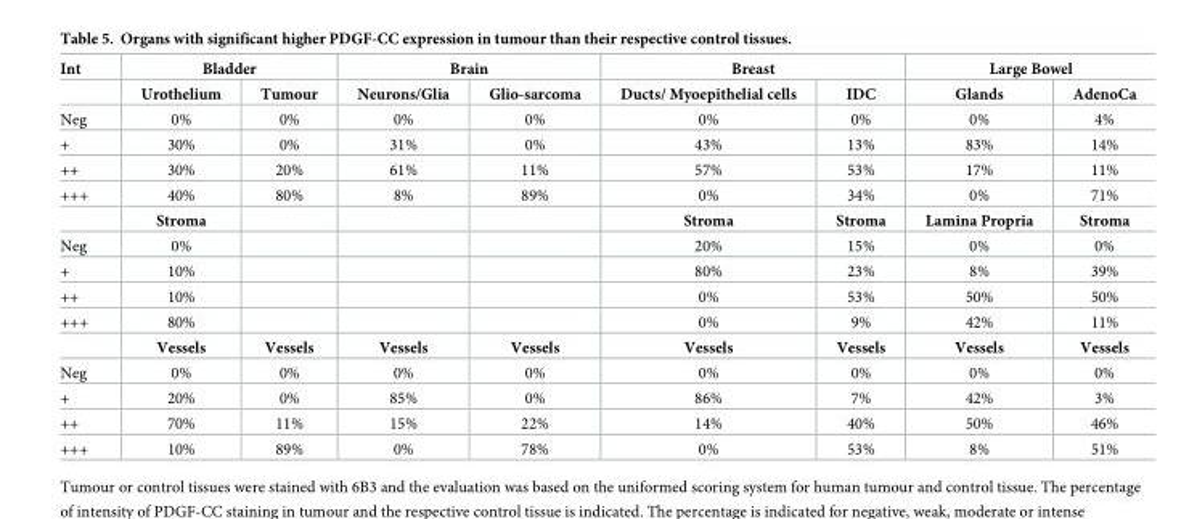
<table><thead><tr><td rowspan="2">Int</td><td colspan="2">Bladder</td><td colspan="2">Brain</td><td colspan="2">Breast</td><td colspan="2">Large Bowel</td></tr><tr><td>Urothelium</td><td>Tumour</td><td>Neurons/Glia</td><td>Glio-sarcoma</td><td>Ducts/ Myoepithelial cells</td><td>IDC</td><td>Glands</td><td>AdenoCa</td></tr></thead><tbody><tr><td>Neg</td><td>0%</td><td>0%</td><td>0%</td><td>0%</td><td>0%</td><td>0%</td><td>0%</td><td>4%</td></tr><tr><td>+</td><td>30%</td><td>0%</td><td>31%</td><td>0%</td><td>43%</td><td>13%</td><td>83%</td><td>14%</td></tr><tr><td>++</td><td>30%</td><td>20%</td><td>61%</td><td>11%</td><td>57%</td><td>53%</td><td>17%</td><td>11%</td></tr><tr><td rowspan="2">+++</td><td>40%</td><td>80%</td><td>8%</td><td>89%</td><td>0%</td><td>34%</td><td>0%</td><td>71%</td></tr><tr><td>Stroma</td><td></td><td></td><td></td><td>Stroma</td><td>Stroma</td><td>Lamina Propria</td><td>Stroma</td></tr><tr><td>Neg</td><td>0%</td><td></td><td></td><td></td><td>20%</td><td>15%</td><td>0%</td><td>0%</td></tr><tr><td>+</td><td>10%</td><td></td><td></td><td></td><td>80%</td><td>23%</td><td>8%</td><td>39%</td></tr><tr><td>++</td><td>10%</td><td></td><td></td><td></td><td>0%</td><td>53%</td><td>50%</td><td>50%</td></tr><tr><td rowspan="2">+++</td><td>80%</td><td></td><td></td><td></td><td>0%</td><td>9%</td><td>42%</td><td>11%</td></tr><tr><td>Vessels</td><td>Vessels</td><td>Vessels</td><td>Vessels</td><td>Vessels</td><td>Vessels</td><td>Vessels</td><td>Vessels</td></tr><tr><td>Neg</td><td>0%</td><td>0%</td><td>0%</td><td>0%</td><td>0%</td><td>0%</td><td>0%</td><td>0%</td></tr><tr><td>+</td><td>20%</td><td>0%</td><td>85%</td><td>0%</td><td>86%</td><td>7%</td><td>42%</td><td>3%</td></tr><tr><td>++</td><td>70%</td><td>11%</td><td>15%</td><td>22%</td><td>14%</td><td>40%</td><td>50%</td><td>46%</td></tr><tr><td>+++</td><td>10%</td><td>89%</td><td>0%</td><td>78%</td><td>0%</td><td>53%</td><td>8%</td><td>51%</td></tr></tbody></table>